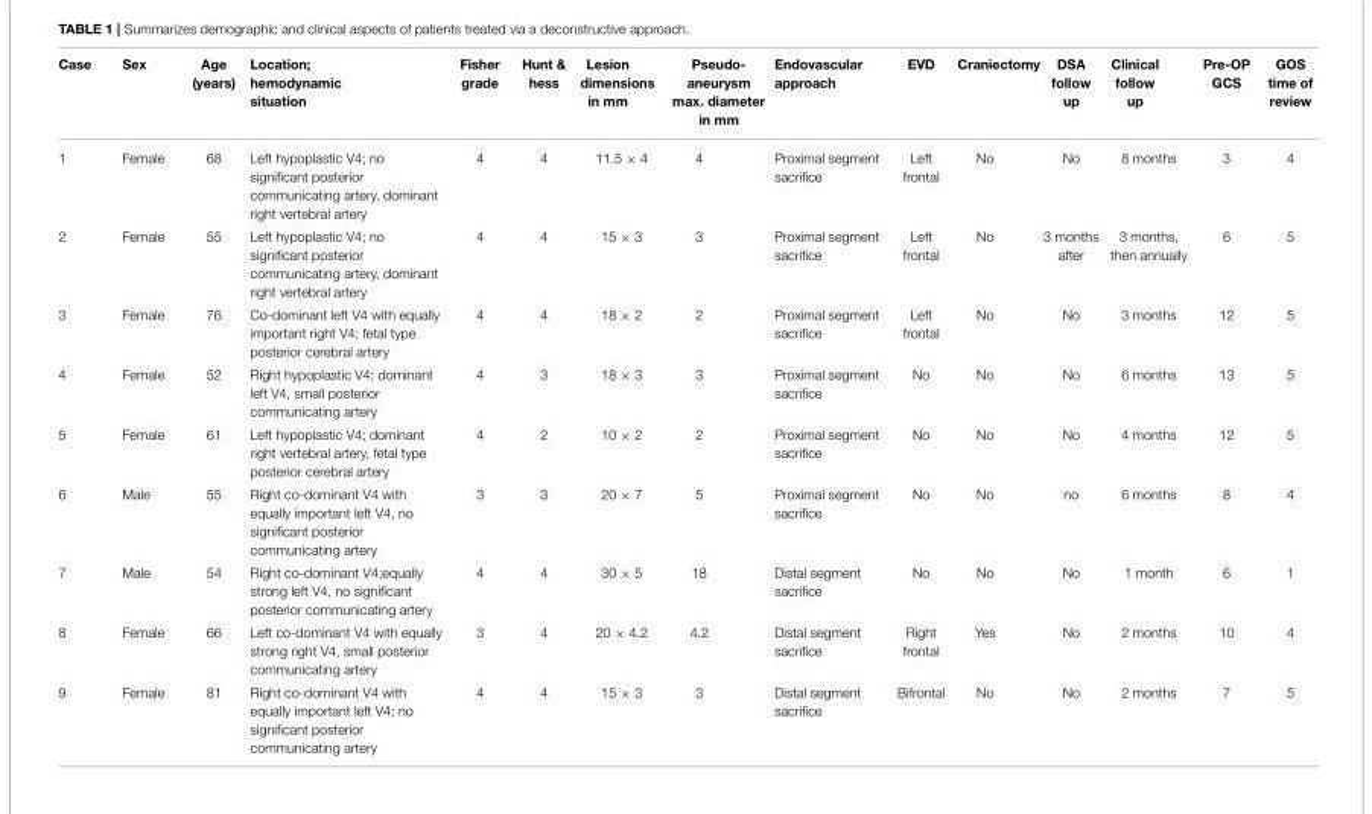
<table><thead><tr><td>Case</td><td>Sex</td><td>Age (years)</td><td>Location; hemodynamic situation</td><td>Fisher grade</td><td>Hunt &amp; hess</td><td>Lesion dimensions in mm</td><td>Pseudo- aneurysm max. diameter in mm</td><td>Endovascular approach</td><td>EVD</td><td>Craniectomy</td><td>DSA follow up</td><td>Clinical follow up</td><td>Pre-OP GCS</td><td>GOS time of review</td></tr></thead><tbody><tr><td>1</td><td>Female</td><td>68</td><td>Left hypoplastic V4; no significant posterior communicating artery, dominant right vertebral artery</td><td>4</td><td>4</td><td>11.5 × 4</td><td>4</td><td>Proximal segment sacrifice</td><td>Left frontal</td><td>No</td><td>No</td><td>8 months</td><td>3</td><td>4</td></tr><tr><td>2</td><td>Female</td><td>55</td><td>Left hypoplastic V4; no significant posterior communicating artery, dominant right vertebral artery</td><td>4</td><td>4</td><td>15 × 3</td><td>3</td><td>Proximal segment sacrifice</td><td>Left frontal</td><td>No</td><td>3 months after</td><td>3 months, then annually</td><td>6</td><td>5</td></tr><tr><td>3</td><td>Female</td><td>76</td><td>Co-dominant left V4 with equally important right V4; fetal type posterior cerebral artery</td><td>4</td><td>4</td><td>18 × 2</td><td>2</td><td>Proximal segment sacrifice</td><td>Left frontal</td><td>No</td><td>No</td><td>3 months</td><td>12</td><td>5</td></tr><tr><td>4</td><td>Female</td><td>52</td><td>Right hypoplastic V4; dominant left V4, small posterior communicating artery</td><td>4</td><td>3</td><td>18 × 3</td><td>3</td><td>Proximal segment sacrifice</td><td>No</td><td>No</td><td>No</td><td>6 months</td><td>13</td><td>5</td></tr><tr><td>5</td><td>Female</td><td>61</td><td>Left hypoplastic V4; dominant right vertebral artery, fetal type posterior cerebral artery</td><td>4</td><td>2</td><td>10 × 2</td><td>2</td><td>Proximal segment sacrifice</td><td>No</td><td>No</td><td>No</td><td>4 months</td><td>12</td><td>5</td></tr><tr><td>6</td><td>Male</td><td>55</td><td>Right co-dominant V4 with equally important left V4, no significant posterior communicating artery</td><td>3</td><td>3</td><td>20 × 7</td><td>5</td><td>Proximal segment sacrifice</td><td>No</td><td>No</td><td>no</td><td>6 months</td><td>8</td><td>4</td></tr><tr><td>7</td><td>Male</td><td>54</td><td>Right co-dominant V4;equally strong left V4, no significant posterior communicating artery</td><td>4</td><td>4</td><td>30 × 5</td><td>18</td><td>Distal segment sacrifice</td><td>No</td><td>No</td><td>No</td><td>1 month</td><td>6</td><td>1</td></tr><tr><td>8</td><td>Female</td><td>66</td><td>Left co-dominant V4 with equally strong right V4, small posterior communicating artery</td><td>3</td><td>4</td><td>20 × 4.2</td><td>4.2</td><td>Distal segment sacrifice</td><td>Right frontal</td><td>Yes</td><td>No</td><td>2 months</td><td>10</td><td>4</td></tr><tr><td>9</td><td>Female</td><td>81</td><td>Right co-dominant V4 with equally important left V4; no significant posterior communicating artery</td><td>4</td><td>4</td><td>15 × 3</td><td>3</td><td>Distal segment sacrifice</td><td>Bifrontal</td><td>No</td><td>No</td><td>2 months</td><td>7</td><td>5</td></tr></tbody></table>